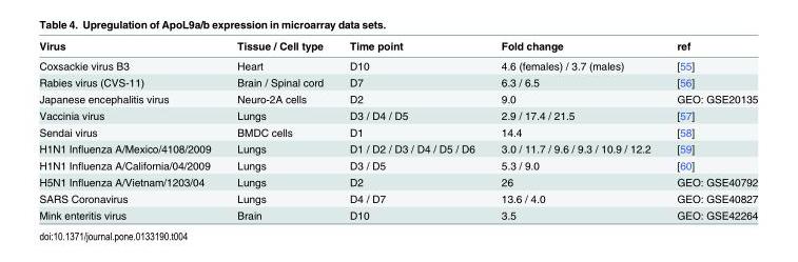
<table><thead><tr><td>Virus</td><td>Tissue / Cell type</td><td>Time point</td><td>Fold change</td><td>ref</td></tr></thead><tbody><tr><td>Coxsackie virus B3</td><td>Heart</td><td>D10</td><td>4.6 (females) / 3.7 (males)</td><td>[55]</td></tr><tr><td>Rabies virus (CVS-11)</td><td>Brain / Spinal cord</td><td>D7</td><td>6.3 / 6.5</td><td>[56]</td></tr><tr><td>Japanese encephalitis virus</td><td>Neuro-2A cells</td><td>D2</td><td>9.0</td><td>GEO: GSE20135</td></tr><tr><td>Vaccinia virus</td><td>Lungs</td><td>D3 / D4 / D5</td><td>2.9 / 17.4 / 21.5</td><td>[57]</td></tr><tr><td>Sendai virus</td><td>BMDC cells</td><td>D1</td><td>14.4</td><td>[58]</td></tr><tr><td>H1N1 Influenza A/Mexico/4108/2009</td><td>Lungs</td><td>D1 / D2 / D3 / D4 / D5 / D6</td><td>3.0 / 11.7 / 9.6 / 9.3 / 10.9 / 12.2</td><td>[59]</td></tr><tr><td>H1N1 Influenza A/California/04/2009</td><td>Lungs</td><td>D3 / D5</td><td>5.3 / 9.0</td><td>[60]</td></tr><tr><td>H5N1 Influenza A/Vietnam/1203/04</td><td>Lungs</td><td>D2</td><td>26</td><td>GEO: GSE40792</td></tr><tr><td>SARS Coronavirus</td><td>Lungs</td><td>D4 / D7</td><td>13.6 / 4.0</td><td>GEO: GSE40827</td></tr><tr><td>Mink enteritis virus</td><td>Brain</td><td>D10</td><td>3.5</td><td>GEO: GSE42264</td></tr></tbody></table>